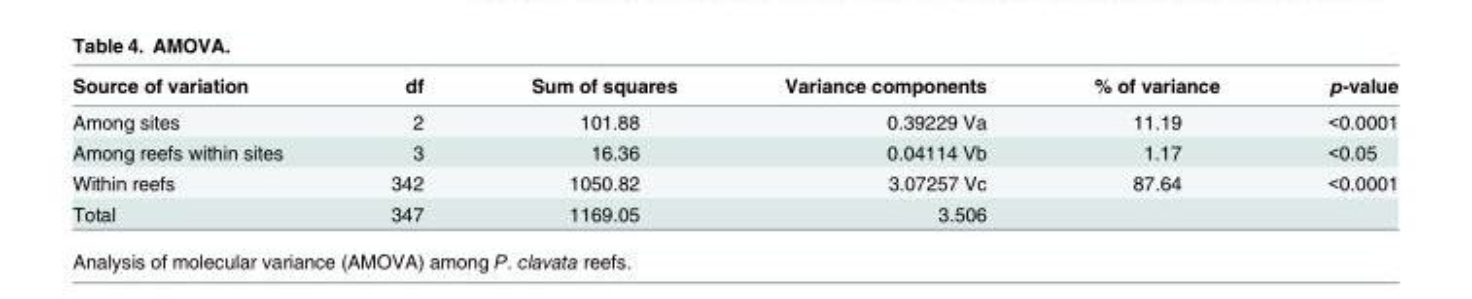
<table><thead><tr><td>Source of variation</td><td>df</td><td>Sum of squares</td><td>Variance components</td><td>% of variance</td><td>p-value</td></tr></thead><tbody><tr><td>Among sites</td><td>2</td><td>101.88</td><td>0.39229 Va</td><td>11.19</td><td>&lt;0.0001</td></tr><tr><td>Among reefs within sites</td><td>3</td><td>16.36</td><td>0.04114 Vb</td><td>1.17</td><td>&lt;0.05</td></tr><tr><td>Within reefs</td><td>342</td><td>1050.82</td><td>3.07257 Vc</td><td>87.64</td><td>&lt;0.0001</td></tr><tr><td>Total</td><td>347</td><td>1169.05</td><td>3.506</td><td></td><td></td></tr></tbody></table>